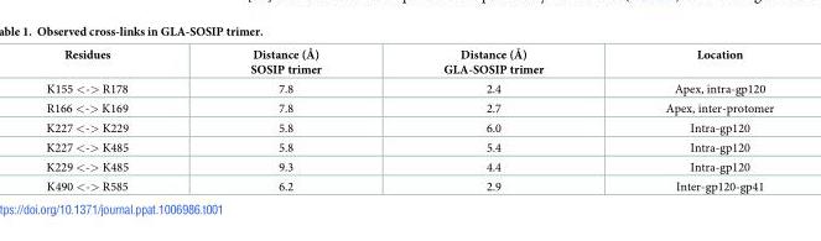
<table><thead><tr><td>Residues</td><td>Distance (Å) SOSIP trimer</td><td>Distance (Å) GLA-SOSIP trimer</td><td>Location</td></tr></thead><tbody><tr><td>K155 &lt;-&gt; R178</td><td>7.8</td><td>2.4</td><td>Apex, intra-gp120</td></tr><tr><td>R166 &lt;-&gt; K169</td><td>7.8</td><td>2.7</td><td>Apex, inter-protomer</td></tr><tr><td>K227 &lt;-&gt; K229</td><td>5.8</td><td>6.0</td><td>Intra-gp120</td></tr><tr><td>K227 &lt;-&gt; K485</td><td>5.8</td><td>5.4</td><td>Intra-gp120</td></tr><tr><td>K229 &lt;-&gt; K485</td><td>9.3</td><td>4.4</td><td>Intra-gp120</td></tr><tr><td>K490 &lt;-&gt; R585</td><td>6.2</td><td>2.9</td><td>Inter-gp120-gp41</td></tr></tbody></table>